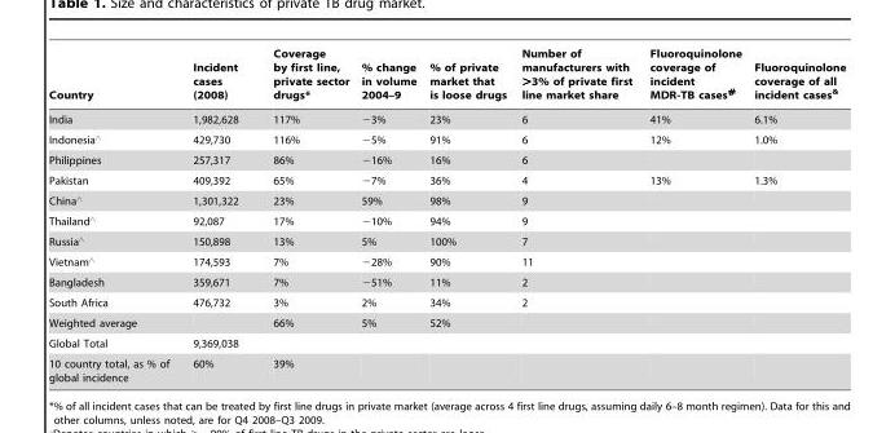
<table><thead><tr><td>Country</td><td>Incident cases (2008)</td><td>Coverage by first line, private sector drugs*</td><td>% change in volume 2004–9</td><td>% of private market that is loose drugs</td><td>Number of manufacturers with &gt;3% of private first line market share</td><td>Fluoroquinolone coverage of incident MDR-TB cases#</td><td>Fluoroquinolone coverage of all incident cases&amp;</td></tr></thead><tbody><tr><td>India</td><td>1,982,628</td><td>117%</td><td>−3%</td><td>23%</td><td>6</td><td>41%</td><td>6.1%</td></tr><tr><td>Indonesia‘</td><td>429,730</td><td>116%</td><td>−5%</td><td>91%</td><td>6</td><td>12%</td><td>1.0%</td></tr><tr><td>Philippines</td><td>257,317</td><td>86%</td><td>−16%</td><td>16%</td><td>6</td><td></td><td></td></tr><tr><td>Pakistan</td><td>409,392</td><td>65%</td><td>−7%</td><td>36%</td><td>4</td><td>13%</td><td>1.3%</td></tr><tr><td>China‘</td><td>1,301,322</td><td>23%</td><td>59%</td><td>98%</td><td>9</td><td></td><td></td></tr><tr><td>Thailand‘</td><td>92,087</td><td>17%</td><td>−10%</td><td>94%</td><td>9</td><td></td><td></td></tr><tr><td>Russia‘</td><td>150,898</td><td>13%</td><td>5%</td><td>100%</td><td>7</td><td></td><td></td></tr><tr><td>Vietnam‘</td><td>174,593</td><td>7%</td><td>−28%</td><td>90%</td><td>11</td><td></td><td></td></tr><tr><td>Bangladesh</td><td>359,671</td><td>7%</td><td>−51%</td><td>11%</td><td>2</td><td></td><td></td></tr><tr><td>South Africa</td><td>476,732</td><td>3%</td><td>2%</td><td>34%</td><td>2</td><td></td><td></td></tr><tr><td>Weighted average</td><td></td><td>66%</td><td>5%</td><td>52%</td><td></td><td></td><td></td></tr><tr><td>Global Total</td><td>9,369,038</td><td></td><td></td><td></td><td></td><td></td><td></td></tr><tr><td>10 country total, as % of global incidence</td><td>60%</td><td>39%</td><td></td><td></td><td></td><td></td><td></td></tr></tbody></table>